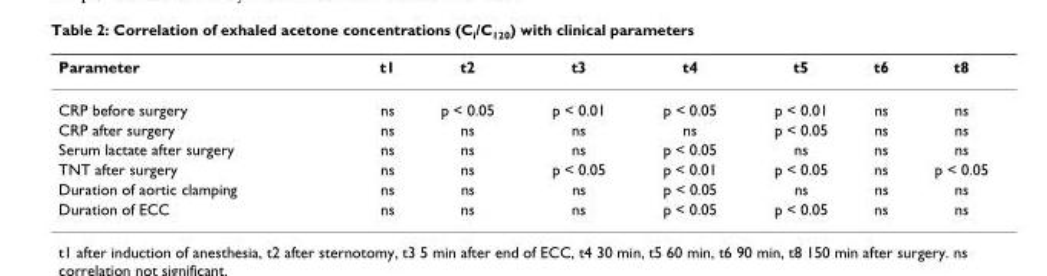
<table><thead><tr><td>Parameter</td><td>t1</td><td>t2</td><td>t3</td><td>t4</td><td>t5</td><td>t6</td><td>t8</td></tr></thead><tbody><tr><td>CRP before surgery</td><td>ns</td><td>p &lt; 0.05</td><td>p &lt; 0.01</td><td>p &lt; 0.05</td><td>p &lt; 0.01</td><td>ns</td><td>ns</td></tr><tr><td>CRP after surgery</td><td>ns</td><td>ns</td><td>ns</td><td>ns</td><td>p &lt; 0.05</td><td>ns</td><td>ns</td></tr><tr><td>Serum lactate after surgery</td><td>ns</td><td>ns</td><td>ns</td><td>p &lt; 0.05</td><td>ns</td><td>ns</td><td>ns</td></tr><tr><td>TNT after surgery</td><td>ns</td><td>ns</td><td>p &lt; 0.05</td><td>p &lt; 0.01</td><td>p &lt; 0.05</td><td>ns</td><td>p &lt; 0.05</td></tr><tr><td>Duration of aortic clamping</td><td>ns</td><td>ns</td><td>ns</td><td>p &lt; 0.05</td><td>ns</td><td>ns</td><td>ns</td></tr><tr><td>Duration of ECC</td><td>ns</td><td>ns</td><td>ns</td><td>p &lt; 0.05</td><td>p &lt; 0.05</td><td>ns</td><td>ns</td></tr></tbody></table>